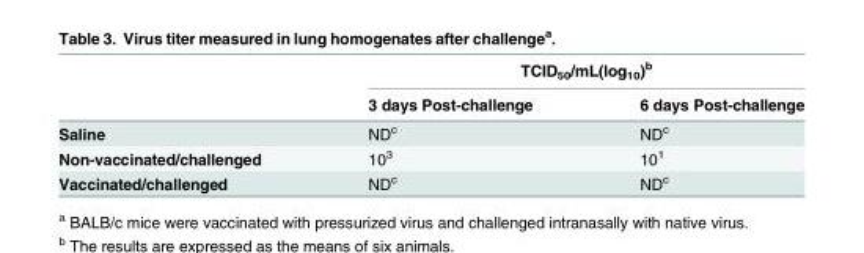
<table><thead><tr><td rowspan="2"></td><td colspan="2">TCID<sub>50</sub>/mL(log<sub>10</sub>)<sup>b</sup></td></tr><tr><td>3 days Post-challenge</td><td>6 days Post-challenge</td></tr></thead><tbody><tr><td>Saline</td><td>ND<sup>c</sup></td><td>ND<sup>c</sup></td></tr><tr><td>Non-vaccinated/challenged</td><td>10<sup>3</sup></td><td>10<sup>1</sup></td></tr><tr><td>Vaccinated/challenged</td><td>ND<sup>c</sup></td><td>ND<sup>c</sup></td></tr></tbody></table>